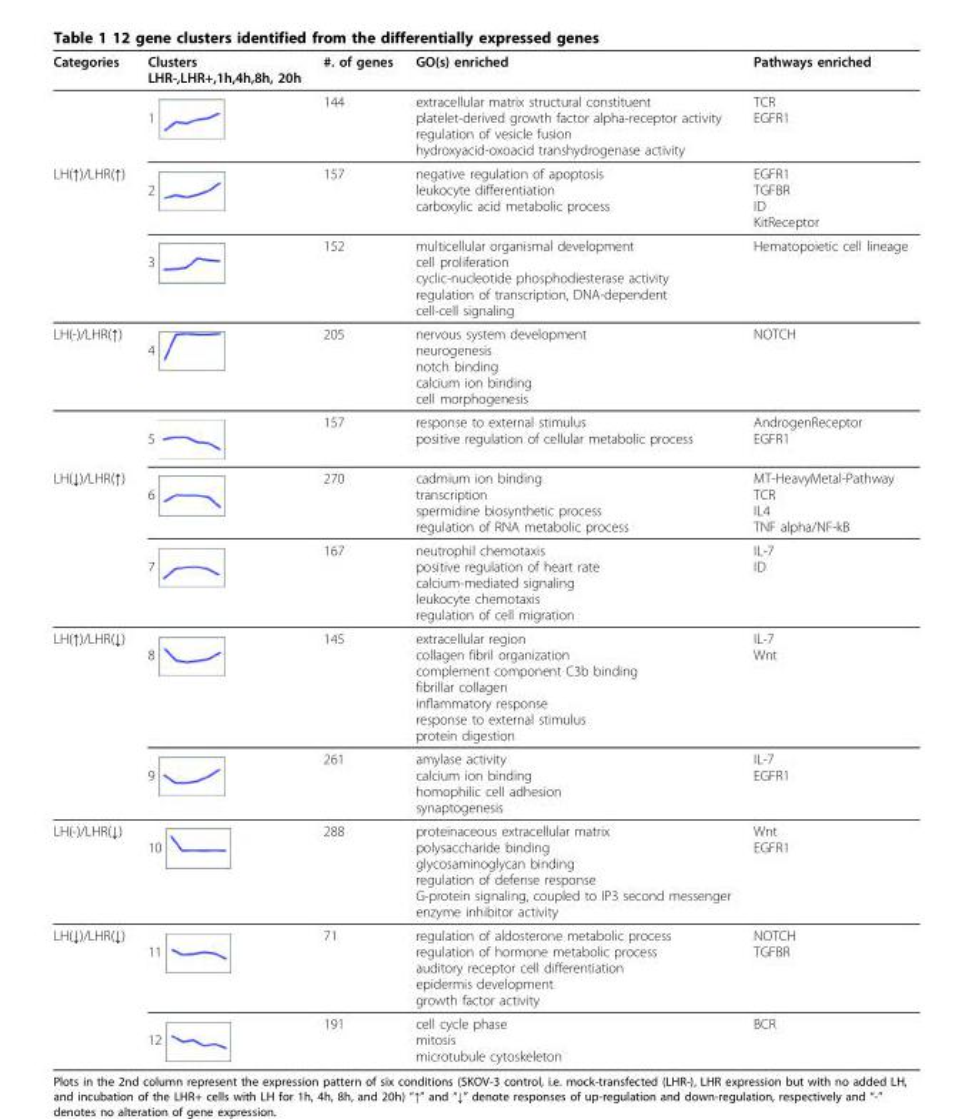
<table><thead><tr><td>Categories</td><td>Clusters LHR-,LHR+,1h,4h,8h, 20h</td><td>#. of genes</td><td>GO(s) enriched</td><td>Pathways enriched</td></tr></thead><tbody><tr><td></td><td>1</td><td>144</td><td>extracellular matrix structural constituent platelet-derived growth factor alpha-receptor activity regulation of vesicle fusion hydroxyacid-oxoacid transhydrogenase activity</td><td>TCR EGFR1</td></tr><tr><td rowspan="2">LH(↑)/LHR(↑)</td><td>2</td><td>157</td><td>negative regulation of apoptosis leukocyte differentiation carboxylic acid metabolic process</td><td>EGFR1 TGFBR ID KitReceptor</td></tr><tr><td>3</td><td>152</td><td>multicellular organismal development cell proliferation cyclic-nucleotide phosphodiesterase activity regulation of transcription, DNA-dependent cell-cell signaling</td><td>Hematopoietic cell lineage</td></tr><tr><td rowspan="2">LH(-)/LHR(↑)</td><td>4</td><td>205</td><td>nervous system development neurogenesis notch binding calcium ion binding cell morphogenesis</td><td>NOTCH</td></tr><tr><td>5</td><td>157</td><td>response to external stimulus positive regulation of cellular metabolic process</td><td>AndrogenReceptor EGFR1</td></tr><tr><td rowspan="2">LH(↓)/LHR(↑)</td><td>6</td><td>270</td><td>cadmium ion binding transcription spermidine biosynthetic process regulation of RNA metabolic process</td><td>MT-HeavyMetal-Pathway TCR IL4 TNF alpha/NF-kB</td></tr><tr><td>7</td><td>167</td><td>neutrophil chemotaxis positive regulation of heart rate calcium-mediated signaling leukocyte chemotaxis regulation of cell migration</td><td>IL-7 ID</td></tr><tr><td rowspan="2">LH(↑)/LHR(↓)</td><td>8</td><td>145</td><td>extracellular region collagen fibril organization complement component C3b binding fibrillar collagen inflammatory response response to external stimulus protein digestion</td><td>IL-7 Wnt</td></tr><tr><td>9</td><td>261</td><td>amylase activity calcium ion binding homophilic cell adhesion synaptogenesis</td><td>IL-7 EGFR1</td></tr><tr><td>LH(-)/LHR(↓)</td><td>10</td><td>288</td><td>proteinaceous extracellular matrix polysaccharide binding glycosaminoglycan binding regulation of defense response G-protein signaling, coupled to IP3 second messenger enzyme inhibitor activity</td><td>Wnt EGFR1</td></tr><tr><td rowspan="2">LH(↓)/LHR(↓)</td><td>11</td><td>71</td><td>regulation of aldosterone metabolic process regulation of hormone metabolic process auditory receptor cell differentiation epidermis development growth factor activity</td><td>NOTCH TGFBR</td></tr><tr><td>12</td><td>191</td><td>cell cycle phase mitosis microtubule cytoskeleton</td><td>BCR</td></tr></tbody></table>